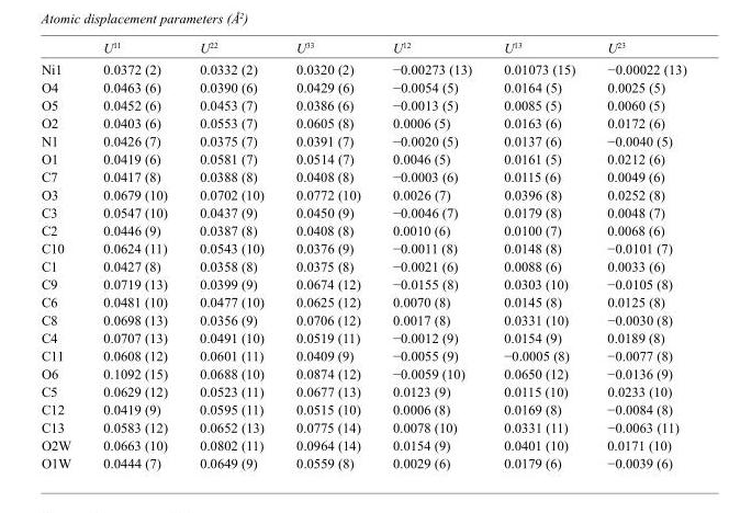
<table><thead><tr><td></td><td>U<sup>11</sup></td><td>U<sup>22</sup></td><td>U<sup>33</sup></td><td>U<sup>12</sup></td><td>U<sup>13</sup></td><td>U<sup>23</sup></td></tr></thead><tbody><tr><td>Ni1</td><td>0.0372 (2)</td><td>0.0332 (2)</td><td>0.0320 (2)</td><td>−0.00273 (13)</td><td>0.01073 (15)</td><td>−0.00022 (13)</td></tr><tr><td>O4</td><td>0.0463 (6)</td><td>0.0390 (6)</td><td>0.0429 (6)</td><td>−0.0054 (5)</td><td>0.0164 (5)</td><td>0.0025 (5)</td></tr><tr><td>O5</td><td>0.0452 (6)</td><td>0.0453 (7)</td><td>0.0386 (6)</td><td>−0.0013 (5)</td><td>0.0085 (5)</td><td>0.0060 (5)</td></tr><tr><td>O2</td><td>0.0403 (6)</td><td>0.0553 (7)</td><td>0.0605 (8)</td><td>0.0006 (5)</td><td>0.0163 (6)</td><td>0.0172 (6)</td></tr><tr><td>N1</td><td>0.0426 (7)</td><td>0.0375 (7)</td><td>0.0391 (7)</td><td>−0.0020 (5)</td><td>0.0137 (6)</td><td>−0.0040 (5)</td></tr><tr><td>O1</td><td>0.0419 (6)</td><td>0.0581 (7)</td><td>0.0514 (7)</td><td>0.0046 (5)</td><td>0.0161 (5)</td><td>0.0212 (6)</td></tr><tr><td>C7</td><td>0.0417 (8)</td><td>0.0388 (8)</td><td>0.0408 (8)</td><td>−0.0003 (6)</td><td>0.0115 (6)</td><td>0.0049 (6)</td></tr><tr><td>O3</td><td>0.0679 (10)</td><td>0.0702 (10)</td><td>0.0772 (10)</td><td>0.0026 (7)</td><td>0.0396 (8)</td><td>0.0252 (8)</td></tr><tr><td>C3</td><td>0.0547 (10)</td><td>0.0437 (9)</td><td>0.0450 (9)</td><td>−0.0046 (7)</td><td>0.0179 (8)</td><td>0.0048 (7)</td></tr><tr><td>C2</td><td>0.0446 (9)</td><td>0.0387 (8)</td><td>0.0408 (8)</td><td>0.0010 (6)</td><td>0.0100 (7)</td><td>0.0068 (6)</td></tr><tr><td>C10</td><td>0.0624 (11)</td><td>0.0543 (10)</td><td>0.0376 (9)</td><td>−0.0011 (8)</td><td>0.0148 (8)</td><td>−0.0101 (7)</td></tr><tr><td>C1</td><td>0.0427 (8)</td><td>0.0358 (8)</td><td>0.0375 (8)</td><td>−0.0021 (6)</td><td>0.0088 (6)</td><td>0.0033 (6)</td></tr><tr><td>C9</td><td>0.0719 (13)</td><td>0.0399 (9)</td><td>0.0674 (12)</td><td>−0.0155 (8)</td><td>0.0303 (10)</td><td>−0.0105 (8)</td></tr><tr><td>C6</td><td>0.0481 (10)</td><td>0.0477 (10)</td><td>0.0625 (12)</td><td>0.0070 (8)</td><td>0.0145 (8)</td><td>0.0125 (8)</td></tr><tr><td>C8</td><td>0.0698 (13)</td><td>0.0356 (9)</td><td>0.0706 (12)</td><td>0.0017 (8)</td><td>0.0331 (10)</td><td>−0.0030 (8)</td></tr><tr><td>C4</td><td>0.0707 (13)</td><td>0.0491 (10)</td><td>0.0519 (11)</td><td>−0.0012 (9)</td><td>0.0154 (9)</td><td>0.0189 (8)</td></tr><tr><td>C11</td><td>0.0608 (12)</td><td>0.0601 (11)</td><td>0.0409 (9)</td><td>−0.0055 (9)</td><td>−0.0005 (8)</td><td>−0.0077 (8)</td></tr><tr><td>O6</td><td>0.1092 (15)</td><td>0.0688 (10)</td><td>0.0874 (12)</td><td>−0.0059 (10)</td><td>0.0650 (12)</td><td>−0.0136 (9)</td></tr><tr><td>C5</td><td>0.0629 (12)</td><td>0.0523 (11)</td><td>0.0677 (13)</td><td>0.0123 (9)</td><td>0.0115 (10)</td><td>0.0233 (10)</td></tr><tr><td>C12</td><td>0.0419 (9)</td><td>0.0595 (11)</td><td>0.0515 (10)</td><td>0.0006 (8)</td><td>0.0169 (8)</td><td>−0.0084 (8)</td></tr><tr><td>C13</td><td>0.0583 (12)</td><td>0.0652 (13)</td><td>0.0775 (14)</td><td>0.0078 (10)</td><td>0.0331 (11)</td><td>−0.0063 (11)</td></tr><tr><td>O2W</td><td>0.0663 (10)</td><td>0.0802 (11)</td><td>0.0964 (14)</td><td>0.0154 (9)</td><td>0.0401 (10)</td><td>0.0171 (10)</td></tr><tr><td>O1W</td><td>0.0444 (7)</td><td>0.0649 (9)</td><td>0.0559 (8)</td><td>0.0029 (6)</td><td>0.0179 (6)</td><td>−0.0039 (6)</td></tr></tbody></table>